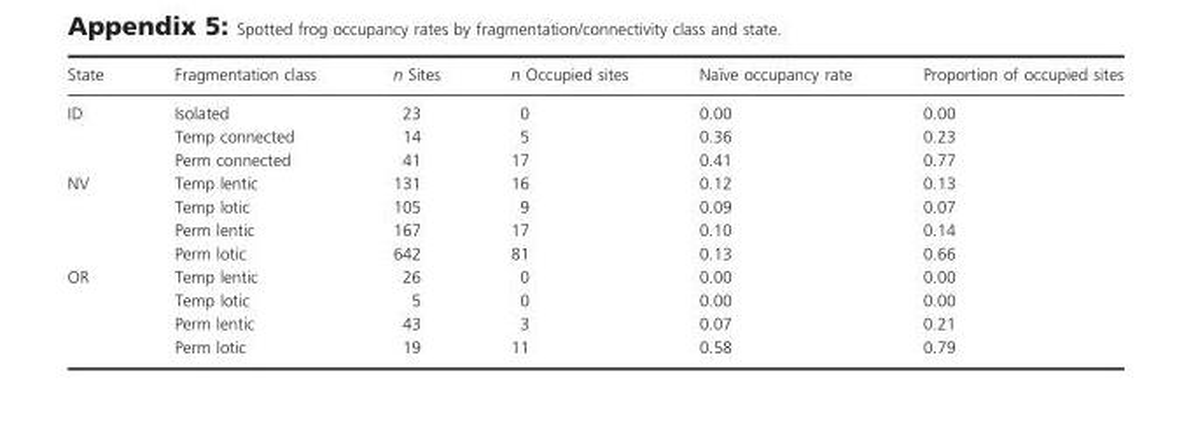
<table><thead><tr><td>State</td><td>Fragmentation class</td><td>n Sites</td><td>n Occupied sites</td><td>Na€ıve occupancy rate</td><td>Proportion of occupied sites</td></tr></thead><tbody><tr><td rowspan="3">ID</td><td>Isolated</td><td>23</td><td>0</td><td>0.00</td><td>0.00</td></tr><tr><td>Temp connected</td><td>14</td><td>5</td><td>0.36</td><td>0.23</td></tr><tr><td>Perm connected</td><td>41</td><td>17</td><td>0.41</td><td>0.77</td></tr><tr><td rowspan="4">NV</td><td>Temp lentic</td><td>131</td><td>16</td><td>0.12</td><td>0.13</td></tr><tr><td>Temp lotic</td><td>105</td><td>9</td><td>0.09</td><td>0.07</td></tr><tr><td>Perm lentic</td><td>167</td><td>17</td><td>0.10</td><td>0.14</td></tr><tr><td>Perm lotic</td><td>642</td><td>81</td><td>0.13</td><td>0.66</td></tr><tr><td rowspan="4">OR</td><td>Temp lentic</td><td>26</td><td>0</td><td>0.00</td><td>0.00</td></tr><tr><td>Temp lotic</td><td>5</td><td>0</td><td>0.00</td><td>0.00</td></tr><tr><td>Perm lentic</td><td>43</td><td>3</td><td>0.07</td><td>0.21</td></tr><tr><td>Perm lotic</td><td>19</td><td>11</td><td>0.58</td><td>0.79</td></tr></tbody></table>